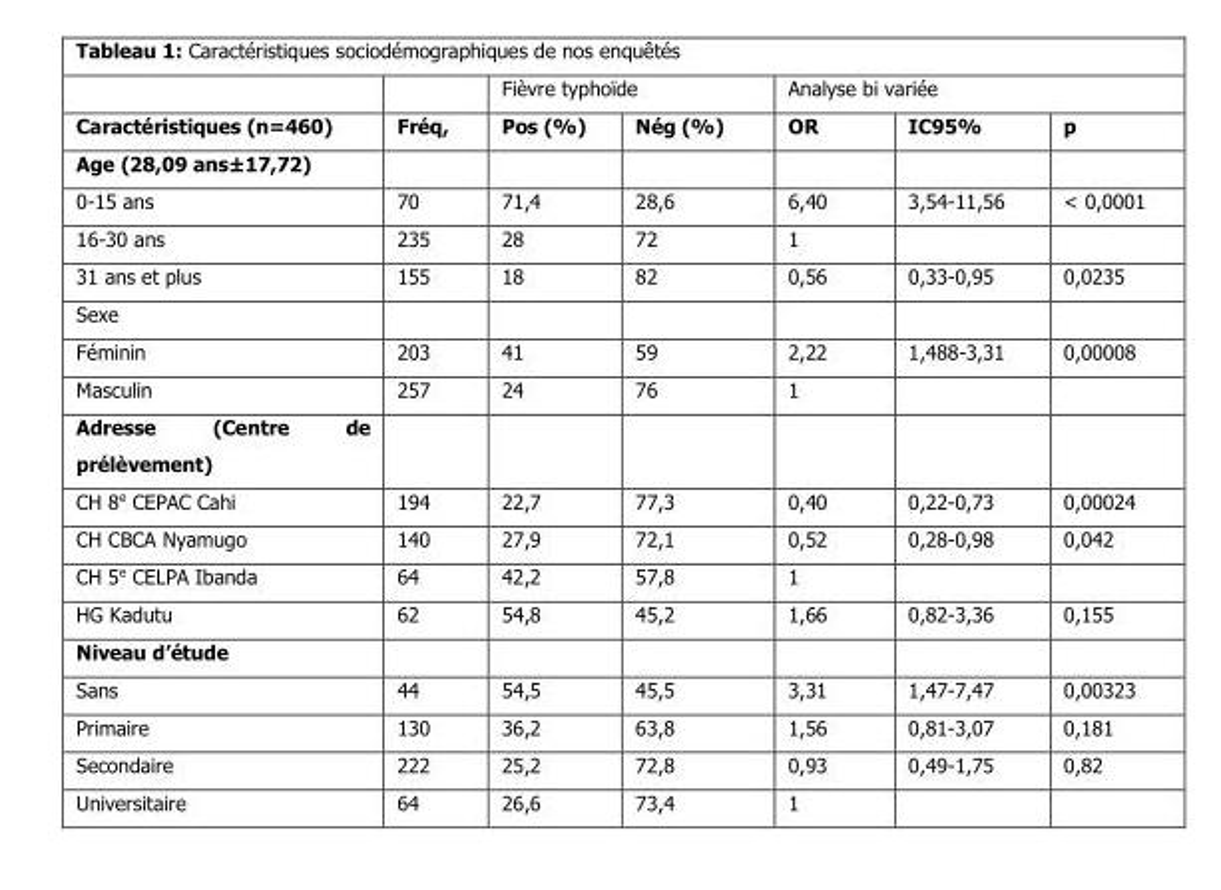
<table><thead><tr><td rowspan="2">Caractéristiques (n=460)</td><td rowspan="2">Fréq,</td><td colspan="2">Fièvre typhoïde</td><td colspan="3">Analyse bi variée</td></tr><tr><td>Pos (%)</td><td>Nég (%)</td><td>OR</td><td>IC95%</td><td>p</td></tr></thead><tbody><tr><td colspan="7">Age (28,09 ans±17,72)</td></tr><tr><td>0-15 ans</td><td>70</td><td>71,4</td><td>28,6</td><td>6,40</td><td>3,54-11,56</td><td>&lt; 0,0001</td></tr><tr><td>16-30 ans</td><td>235</td><td>28</td><td>72</td><td>1</td><td></td><td></td></tr><tr><td>31 ans et plus</td><td>155</td><td>18</td><td>82</td><td>0,56</td><td>0,33-0,95</td><td>0,0235</td></tr><tr><td colspan="7">Sexe</td></tr><tr><td>Féminin</td><td>203</td><td>41</td><td>59</td><td>2,22</td><td>1,488-3,31</td><td>0,00008</td></tr><tr><td>Masculin</td><td>257</td><td>24</td><td>76</td><td>1</td><td></td><td></td></tr><tr><td colspan="7">Adresse (Centre de prélèvement)</td></tr><tr><td>CH 8e CEPAC Cahi</td><td>194</td><td>22,7</td><td>77,3</td><td>0,40</td><td>0,22-0,73</td><td>0,00024</td></tr><tr><td>CH CBCA Nyamugo</td><td>140</td><td>27,9</td><td>72,1</td><td>0,52</td><td>0,28-0,98</td><td>0,042</td></tr><tr><td>CH 5e CELPA Ibanda</td><td>64</td><td>42,2</td><td>57,8</td><td>1</td><td></td><td></td></tr><tr><td>HG Kadutu</td><td>62</td><td>54,8</td><td>45,2</td><td>1,66</td><td>0,82-3,36</td><td>0,155</td></tr><tr><td colspan="7">Niveau d’étude</td></tr><tr><td>Sans</td><td>44</td><td>54,5</td><td>45,5</td><td>3,31</td><td>1,47-7,47</td><td>0,00323</td></tr><tr><td>Primaire</td><td>130</td><td>36,2</td><td>63,8</td><td>1,56</td><td>0,81-3,07</td><td>0,181</td></tr><tr><td>Secondaire</td><td>222</td><td>25,2</td><td>72,8</td><td>0,93</td><td>0,49-1,75</td><td>0,82</td></tr><tr><td>Universitaire</td><td>64</td><td>26,6</td><td>73,4</td><td>1</td><td></td><td></td></tr></tbody></table>